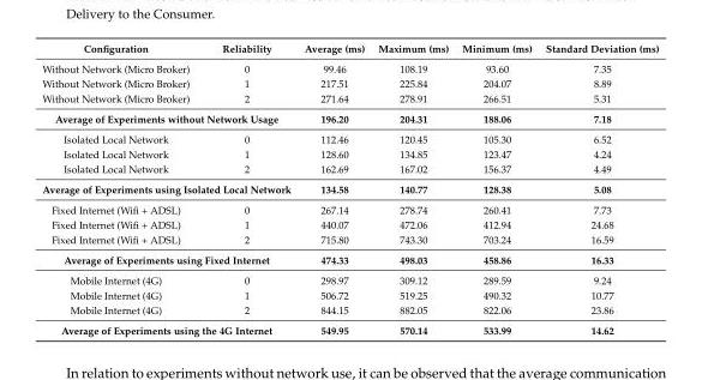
<table><thead><tr><td>Configuration</td><td>Reliability</td><td>Average (ms)</td><td>Maximum (ms)</td><td>Minimum (ms)</td><td>Standard Deviation (ms)</td></tr></thead><tbody><tr><td>Without Network (Micro Broker)</td><td>0</td><td>99.46</td><td>108.19</td><td>93.60</td><td>7.35</td></tr><tr><td>Without Network (Micro Broker)</td><td>1</td><td>217.51</td><td>225.84</td><td>204.07</td><td>8.89</td></tr><tr><td>Without Network (Micro Broker)</td><td>2</td><td>271.64</td><td>278.91</td><td>266.51</td><td>5.31</td></tr><tr><td colspan="2">Average of Experiments without Network Usage</td><td>196.20</td><td>204.31</td><td>188.06</td><td>7.18</td></tr><tr><td>Isolated Local Network</td><td>0</td><td>112.46</td><td>120.45</td><td>105.30</td><td>6.52</td></tr><tr><td>Isolated Local Network</td><td>1</td><td>128.60</td><td>134.85</td><td>123.47</td><td>4.24</td></tr><tr><td>Isolated Local Network</td><td>2</td><td>162.69</td><td>167.02</td><td>156.37</td><td>4.49</td></tr><tr><td colspan="2">Average of Experiments using Isolated Local Network</td><td>134.58</td><td>140.77</td><td>128.38</td><td>5.08</td></tr><tr><td>Fixed Internet (Wifi + ADSL)</td><td>0</td><td>267.14</td><td>278.74</td><td>260.41</td><td>7.73</td></tr><tr><td>Fixed Internet (Wifi + ADSL)</td><td>1</td><td>440.07</td><td>472.06</td><td>412.94</td><td>24.68</td></tr><tr><td>Fixed Internet (Wifi + ADSL)</td><td>2</td><td>715.80</td><td>743.30</td><td>703.24</td><td>16.59</td></tr><tr><td colspan="2">Average of Experiments using Fixed Internet</td><td>474.33</td><td>498.03</td><td>458.86</td><td>16.33</td></tr><tr><td>Mobile Internet (4G)</td><td>0</td><td>298.97</td><td>309.12</td><td>289.59</td><td>9.24</td></tr><tr><td>Mobile Internet (4G)</td><td>1</td><td>506.72</td><td>519.25</td><td>490.32</td><td>10.77</td></tr><tr><td>Mobile Internet (4G)</td><td>2</td><td>844.15</td><td>882.05</td><td>822.06</td><td>23.86</td></tr><tr><td colspan="2">Average of Experiments using the 4G Internet</td><td>549.95</td><td>570.14</td><td>533.99</td><td>14.62</td></tr></tbody></table>